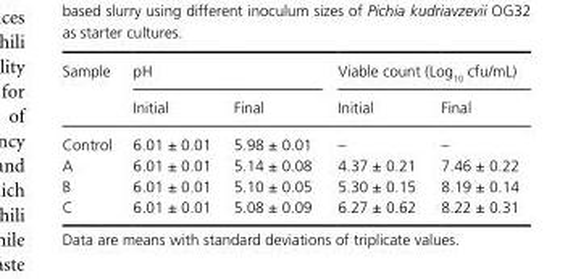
<table><thead><tr><td rowspan="2">Sample</td><td colspan="2">pH</td><td colspan="2">Viable count (Log<sub>10</sub> cfu/mL)</td></tr><tr><td>Initial</td><td>Final</td><td>Initial</td><td>Final</td></tr></thead><tbody><tr><td>Control</td><td>6.01 ± 0.01</td><td>5.98 ± 0.01</td><td>–</td><td>–</td></tr><tr><td>A</td><td>6.01 ± 0.01</td><td>5.14 ± 0.08</td><td>4.37 ± 0.21</td><td>7.46 ± 0.22</td></tr><tr><td>B</td><td>6.01 ± 0.01</td><td>5.10 ± 0.05</td><td>5.30 ± 0.15</td><td>8.19 ± 0.14</td></tr><tr><td>C</td><td>6.01 ± 0.01</td><td>5.08 ± 0.09</td><td>6.27 ± 0.62</td><td>8.22 ± 0.31</td></tr></tbody></table>